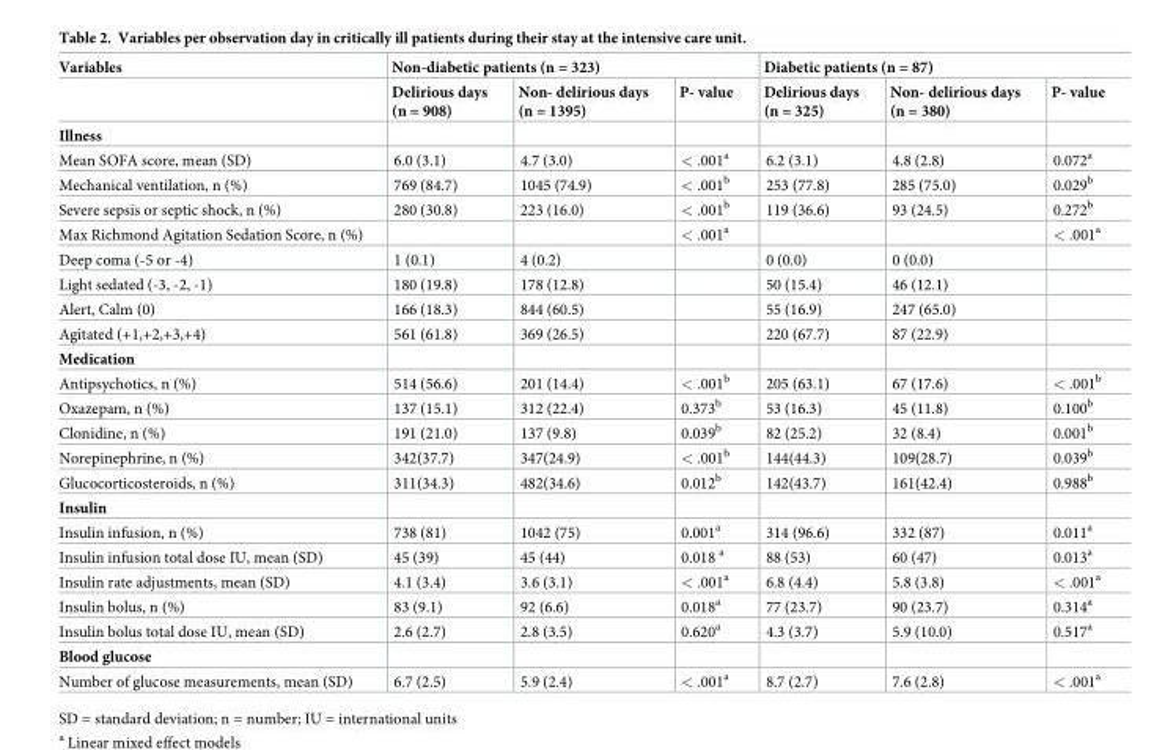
<table><thead><tr><td rowspan="2">Variables</td><td colspan="3">Non-diabetic patients (n = 323)</td><td colspan="3">Diabetic patients (n = 87)</td></tr><tr><td>Delirious days (n = 908)</td><td>Non- delirious days (n = 1395)</td><td>P- value</td><td>Delirious days (n = 325)</td><td>Non- delirious days (n = 380)</td><td>P- value</td></tr></thead><tbody><tr><td colspan="7">Illness</td></tr><tr><td>Mean SOFA score, mean (SD)</td><td>6.0 (3.1)</td><td>4.7 (3.0)</td><td>&lt; .001<sup>a</sup></td><td>6.2 (3.1)</td><td>4.8 (2.8)</td><td>0.072<sup>a</sup></td></tr><tr><td>Mechanical ventilation, n (%)</td><td>769 (84.7)</td><td>1045 (74.9)</td><td>&lt; .001<sup>b</sup></td><td>253 (77.8)</td><td>285 (75.0)</td><td>0.029<sup>b</sup></td></tr><tr><td>Severe sepsis or septic shock, n (%)</td><td>280 (30.8)</td><td>223 (16.0)</td><td>&lt; .001<sup>b</sup></td><td>119 (36.6)</td><td>93 (24.5)</td><td>0.272<sup>b</sup></td></tr><tr><td>Max Richmond Agitation Sedation Score, n (%)</td><td></td><td></td><td>&lt; .001<sup>a</sup></td><td></td><td></td><td>&lt; .001<sup>a</sup></td></tr><tr><td>Deep coma (-5 or -4)</td><td>1 (0.1)</td><td>4 (0.2)</td><td></td><td>0 (0.0)</td><td>0 (0.0)</td><td></td></tr><tr><td>Light sedated (-3, -2, -1)</td><td>180 (19.8)</td><td>178 (12.8)</td><td></td><td>50 (15.4)</td><td>46 (12.1)</td><td></td></tr><tr><td>Alert, Calm (0)</td><td>166 (18.3)</td><td>844 (60.5)</td><td></td><td>55 (16.9)</td><td>247 (65.0)</td><td></td></tr><tr><td>Agitated (+1,+2,+3,+4)</td><td>561 (61.8)</td><td>369 (26.5)</td><td></td><td>220 (67.7)</td><td>87 (22.9)</td><td></td></tr><tr><td colspan="7">Medication</td></tr><tr><td>Antipsychotics, n (%)</td><td>514 (56.6)</td><td>201 (14.4)</td><td>&lt; .001<sup>b</sup></td><td>205 (63.1)</td><td>67 (17.6)</td><td>&lt; .001<sup>b</sup></td></tr><tr><td>Oxazepam, n (%)</td><td>137 (15.1)</td><td>312 (22.4)</td><td>0.373<sup>b</sup></td><td>53 (16.3)</td><td>45 (11.8)</td><td>0.100<sup>b</sup></td></tr><tr><td>Clonidine, n (%)</td><td>191 (21.0)</td><td>137 (9.8)</td><td>0.039<sup>b</sup></td><td>82 (25.2)</td><td>32 (8.4)</td><td>0.001<sup>b</sup></td></tr><tr><td>Norepinephrine, n (%)</td><td>342(37.7)</td><td>347(24.9)</td><td>&lt; .001<sup>b</sup></td><td>144(44.3)</td><td>109(28.7)</td><td>0.039<sup>b</sup></td></tr><tr><td>Glucocorticosteroids, n (%)</td><td>311(34.3)</td><td>482(34.6)</td><td>0.012<sup>b</sup></td><td>142(43.7)</td><td>161(42.4)</td><td>0.988<sup>b</sup></td></tr><tr><td colspan="7">Insulin</td></tr><tr><td>Insulin infusion, n (%)</td><td>738 (81)</td><td>1042 (75)</td><td>0.001<sup>a</sup></td><td>314 (96.6)</td><td>332 (87)</td><td>0.011<sup>a</sup></td></tr><tr><td>Insulin infusion total dose IU, mean (SD)</td><td>45 (39)</td><td>45 (44)</td><td>0.018 <sup>a</sup></td><td>88 (53)</td><td>60 (47)</td><td>0.013<sup>a</sup></td></tr><tr><td>Insulin rate adjustments, mean (SD)</td><td>4.1 (3.4)</td><td>3.6 (3.1)</td><td>&lt; .001<sup>a</sup></td><td>6.8 (4.4)</td><td>5.8 (3.8)</td><td>&lt; .001<sup>a</sup></td></tr><tr><td>Insulin bolus, n (%)</td><td>83 (9.1)</td><td>92 (6.6)</td><td>0.018<sup>a</sup></td><td>77 (23.7)</td><td>90 (23.7)</td><td>0.314<sup>a</sup></td></tr><tr><td>Insulin bolus total dose IU, mean (SD)</td><td>2.6 (2.7)</td><td>2.8 (3.5)</td><td>0.620<sup>a</sup></td><td>4.3 (3.7)</td><td>5.9 (10.0)</td><td>0.517<sup>a</sup></td></tr><tr><td colspan="7">Blood glucose</td></tr><tr><td>Number of glucose measurements, mean (SD)</td><td>6.7 (2.5)</td><td>5.9 (2.4)</td><td>&lt; .001<sup>a</sup></td><td>8.7 (2.7)</td><td>7.6 (2.8)</td><td>&lt; .001<sup>a</sup></td></tr></tbody></table>